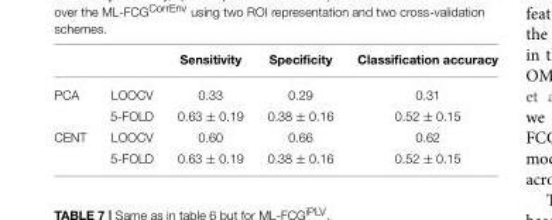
<table><thead><tr><td></td><td></td><td>Sensitivity</td><td>Specificity</td><td>Classification accuracy</td></tr></thead><tbody><tr><td rowspan="2">PCA</td><td>LOOCV</td><td>0.33</td><td>0.29</td><td>0.31</td></tr><tr><td>5-FOLD</td><td>0.63 ± 0.19</td><td>0.38 ± 0.16</td><td>0.52 ± 0.15</td></tr><tr><td rowspan="2">CENT</td><td>LOOCV</td><td>0.60</td><td>0.66</td><td>0.62</td></tr><tr><td>5-FOLD</td><td>0.63 ± 0.19</td><td>0.38 ± 0.16</td><td>0.52 ± 0.15</td></tr></tbody></table>